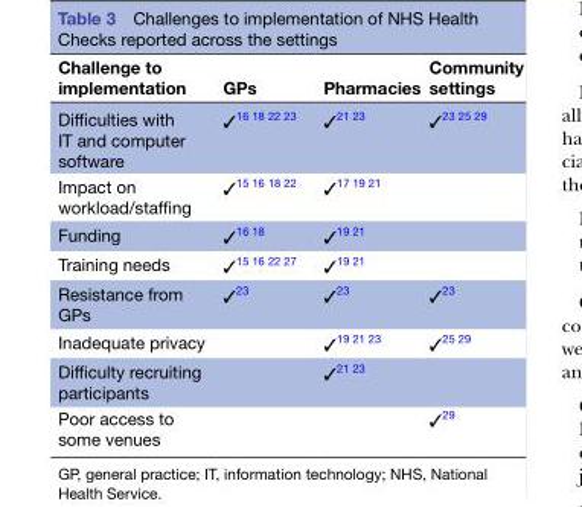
<table><thead><tr><td>Challenge to implementation</td><td>GPs</td><td>Pharmacies</td><td>Community settings</td></tr></thead><tbody><tr><td>Difficulties with IT and computer software</td><td>✓<sup>16 18 22 23</sup></td><td>✓<sup>21 23</sup></td><td>✓<sup>23 25 29</sup></td></tr><tr><td>Impact on workload/staffing</td><td>✓<sup>15 16 18 22</sup></td><td>✓<sup>17 19 21</sup></td><td></td></tr><tr><td>Funding</td><td>✓<sup>16 18</sup></td><td>✓<sup>19 21</sup></td><td></td></tr><tr><td>Training needs</td><td>✓<sup>15 16 22 27</sup></td><td>✓<sup>19 21</sup></td><td></td></tr><tr><td>Resistance from GPs</td><td>✓<sup>23</sup></td><td>✓<sup>23</sup></td><td>✓<sup>23</sup></td></tr><tr><td>Inadequate privacy</td><td></td><td>✓<sup>19 21 23</sup></td><td>✓<sup>25 29</sup></td></tr><tr><td>Difficulty recruiting participants</td><td></td><td>✓<sup>21 23</sup></td><td></td></tr><tr><td>Poor access to some venues</td><td></td><td></td><td>✓<sup>29</sup></td></tr></tbody></table>